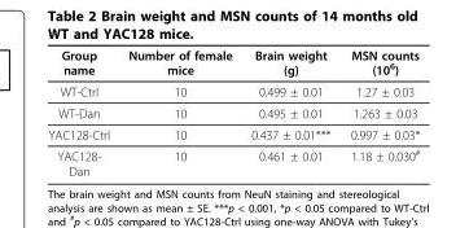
<table><thead><tr><td>Group name</td><td>Number of female mice</td><td>Brain weight (g)</td><td>MSN counts (10<sup>6</sup>)</td></tr></thead><tbody><tr><td>WT-Ctrl</td><td>10</td><td>0.499 ± 0.01</td><td>1.27 ± 0.03</td></tr><tr><td>WT-Dan</td><td>10</td><td>0.495 ± 0.01</td><td>1.263 ± 0.03</td></tr><tr><td>YAC128-Ctrl</td><td>10</td><td>0.437 ± 0.01***</td><td>0.997 ± 0.03*</td></tr><tr><td>YAC128- Dan</td><td>10</td><td>0.461 ± 0.01</td><td>1.18 ± 0.030<sup>#</sup></td></tr></tbody></table>